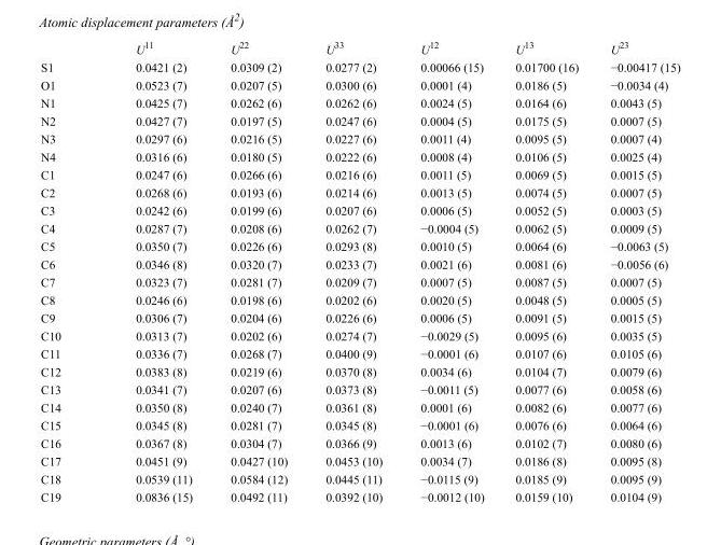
<table><thead><tr><td></td><td>U<sup>11</sup></td><td>U<sup>22</sup></td><td>U<sup>33</sup></td><td>U<sup>12</sup></td><td>U<sup>13</sup></td><td>U<sup>23</sup></td></tr></thead><tbody><tr><td>S1</td><td>0.0421 (2)</td><td>0.0309 (2)</td><td>0.0277 (2)</td><td>0.00066 (15)</td><td>0.01700 (16)</td><td>−0.00417 (15)</td></tr><tr><td>O1</td><td>0.0523 (7)</td><td>0.0207 (5)</td><td>0.0300 (6)</td><td>0.0001 (4)</td><td>0.0186 (5)</td><td>−0.0034 (4)</td></tr><tr><td>N1</td><td>0.0425 (7)</td><td>0.0262 (6)</td><td>0.0262 (6)</td><td>0.0024 (5)</td><td>0.0164 (6)</td><td>0.0043 (5)</td></tr><tr><td>N2</td><td>0.0427 (7)</td><td>0.0197 (5)</td><td>0.0247 (6)</td><td>0.0004 (5)</td><td>0.0175 (5)</td><td>0.0007 (5)</td></tr><tr><td>N3</td><td>0.0297 (6)</td><td>0.0216 (5)</td><td>0.0227 (6)</td><td>0.0011 (4)</td><td>0.0095 (5)</td><td>0.0007 (4)</td></tr><tr><td>N4</td><td>0.0316 (6)</td><td>0.0180 (5)</td><td>0.0222 (6)</td><td>0.0008 (4)</td><td>0.0106 (5)</td><td>0.0025 (4)</td></tr><tr><td>C1</td><td>0.0247 (6)</td><td>0.0266 (6)</td><td>0.0216 (6)</td><td>0.0011 (5)</td><td>0.0069 (5)</td><td>0.0015 (5)</td></tr><tr><td>C2</td><td>0.0268 (6)</td><td>0.0193 (6)</td><td>0.0214 (6)</td><td>0.0013 (5)</td><td>0.0074 (5)</td><td>0.0007 (5)</td></tr><tr><td>C3</td><td>0.0242 (6)</td><td>0.0199 (6)</td><td>0.0207 (6)</td><td>0.0006 (5)</td><td>0.0052 (5)</td><td>0.0003 (5)</td></tr><tr><td>C4</td><td>0.0287 (7)</td><td>0.0208 (6)</td><td>0.0262 (7)</td><td>−0.0004 (5)</td><td>0.0062 (5)</td><td>0.0009 (5)</td></tr><tr><td>C5</td><td>0.0350 (7)</td><td>0.0226 (6)</td><td>0.0293 (8)</td><td>0.0010 (5)</td><td>0.0064 (6)</td><td>−0.0063 (5)</td></tr><tr><td>C6</td><td>0.0346 (8)</td><td>0.0320 (7)</td><td>0.0233 (7)</td><td>0.0021 (6)</td><td>0.0081 (6)</td><td>−0.0056 (6)</td></tr><tr><td>C7</td><td>0.0323 (7)</td><td>0.0281 (7)</td><td>0.0209 (7)</td><td>0.0007 (5)</td><td>0.0087 (5)</td><td>0.0007 (5)</td></tr><tr><td>C8</td><td>0.0246 (6)</td><td>0.0198 (6)</td><td>0.0202 (6)</td><td>0.0020 (5)</td><td>0.0048 (5)</td><td>0.0005 (5)</td></tr><tr><td>C9</td><td>0.0306 (7)</td><td>0.0204 (6)</td><td>0.0226 (6)</td><td>0.0006 (5)</td><td>0.0091 (5)</td><td>0.0015 (5)</td></tr><tr><td>C10</td><td>0.0313 (7)</td><td>0.0202 (6)</td><td>0.0274 (7)</td><td>−0.0029 (5)</td><td>0.0095 (6)</td><td>0.0035 (5)</td></tr><tr><td>C11</td><td>0.0336 (7)</td><td>0.0268 (7)</td><td>0.0400 (9)</td><td>−0.0001 (6)</td><td>0.0107 (6)</td><td>0.0105 (6)</td></tr><tr><td>C12</td><td>0.0383 (8)</td><td>0.0219 (6)</td><td>0.0370 (8)</td><td>0.0034 (6)</td><td>0.0104 (7)</td><td>0.0079 (6)</td></tr><tr><td>C13</td><td>0.0341 (7)</td><td>0.0207 (6)</td><td>0.0373 (8)</td><td>−0.0011 (5)</td><td>0.0077 (6)</td><td>0.0058 (6)</td></tr><tr><td>C14</td><td>0.0350 (8)</td><td>0.0240 (7)</td><td>0.0361 (8)</td><td>0.0001 (6)</td><td>0.0082 (6)</td><td>0.0077 (6)</td></tr><tr><td>C15</td><td>0.0345 (8)</td><td>0.0281 (7)</td><td>0.0345 (8)</td><td>−0.0001 (6)</td><td>0.0076 (6)</td><td>0.0064 (6)</td></tr><tr><td>C16</td><td>0.0367 (8)</td><td>0.0304 (7)</td><td>0.0366 (9)</td><td>0.0013 (6)</td><td>0.0102 (7)</td><td>0.0080 (6)</td></tr><tr><td>C17</td><td>0.0451 (9)</td><td>0.0427 (10)</td><td>0.0453 (10)</td><td>0.0034 (7)</td><td>0.0186 (8)</td><td>0.0095 (8)</td></tr><tr><td>C18</td><td>0.0539 (11)</td><td>0.0584 (12)</td><td>0.0445 (11)</td><td>−0.0115 (9)</td><td>0.0185 (9)</td><td>0.0095 (9)</td></tr><tr><td>C19</td><td>0.0836 (15)</td><td>0.0492 (11)</td><td>0.0392 (10)</td><td>−0.0012 (10)</td><td>0.0159 (10)</td><td>0.0104 (9)</td></tr></tbody></table>